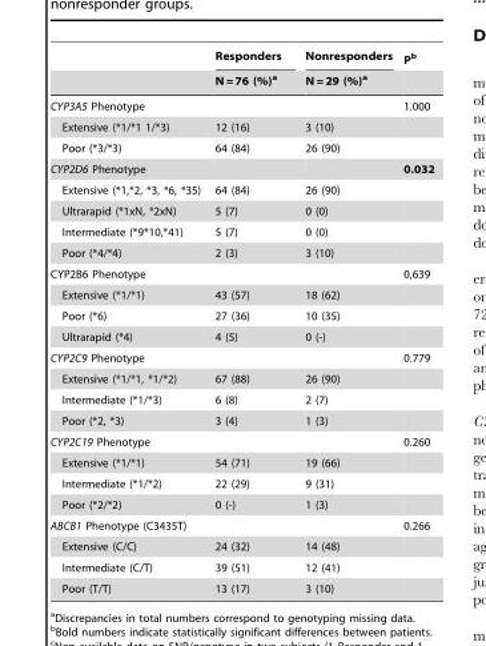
<table><thead><tr><td rowspan="2"></td><td rowspan="2">Responders N = 76 (%)<sup>a</sup></td><td rowspan="2">Nonresponders N = 29 (%)<sup>a</sup></td><td rowspan="2">P<sup>b</sup></td></tr><tr></tr></thead><tbody><tr><td>CYP3A5 Phenotype</td><td></td><td></td><td>1.000</td></tr><tr><td>Extensive (*1/*1 1/*3)</td><td>12 (16)</td><td>3 (10)</td><td></td></tr><tr><td>Poor (*3/*3)</td><td>64 (84)</td><td>26 (90)</td><td></td></tr><tr><td>CYP2D6 Phenotype</td><td></td><td></td><td>0.032</td></tr><tr><td>Extensive (*1,*2, *3, *6, *35)</td><td>64 (84)</td><td>26 (90)</td><td></td></tr><tr><td>Ultrarapid (*1xN, *2xN)</td><td>5 (7)</td><td>0 (0)</td><td></td></tr><tr><td>Intermediate (*9*10,*41)</td><td>5 (7)</td><td>0 (0)</td><td></td></tr><tr><td>Poor (*4/*4)</td><td>2 (3)</td><td>3 (10)</td><td></td></tr><tr><td>CYP2B6 Phenotype</td><td></td><td></td><td>0,639</td></tr><tr><td>Extensive (*1/*1)</td><td>43 (57)</td><td>18 (62)</td><td></td></tr><tr><td>Poor (*6)</td><td>27 (36)</td><td>10 (35)</td><td></td></tr><tr><td>Ultrarapid (*4)</td><td>4 (5)</td><td>0 (-)</td><td></td></tr><tr><td>CYP2C9 Phenotype</td><td></td><td></td><td>0.779</td></tr><tr><td>Extensive (*1/*1, *1/*2)</td><td>67 (88)</td><td>26 (90)</td><td></td></tr><tr><td>Intermediate (*1/*3)</td><td>6 (8)</td><td>2 (7)</td><td></td></tr><tr><td>Poor (*2, *3)</td><td>3 (4)</td><td>1 (3)</td><td></td></tr><tr><td>CYP2C19 Phenotype</td><td></td><td></td><td>0.260</td></tr><tr><td>Extensive (*1/*1)</td><td>54 (71)</td><td>19 (66)</td><td></td></tr><tr><td>Intermediate (*1/*2)</td><td>22 (29)</td><td>9 (31)</td><td></td></tr><tr><td>Poor (*2/*2)</td><td>0 (-)</td><td>1 (3)</td><td></td></tr><tr><td>ABCB1 Phenotype (C3435T)</td><td></td><td></td><td>0.266</td></tr><tr><td>Extensive (C/C)</td><td>24 (32)</td><td>14 (48)</td><td></td></tr><tr><td>Intermediate (C/T)</td><td>39 (51)</td><td>12 (41)</td><td></td></tr><tr><td>Poor (T/T)</td><td>13 (17)</td><td>3 (10)</td><td></td></tr></tbody></table>